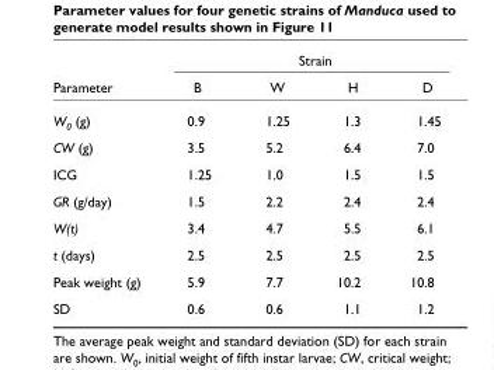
<table><thead><tr><td rowspan="2">Parameter</td><td colspan="4">Strain</td></tr><tr><td>B</td><td>W</td><td>H</td><td>D</td></tr></thead><tbody><tr><td>W0 (g)</td><td>0.9</td><td>1.25</td><td>1.3</td><td>1.45</td></tr><tr><td>CW (g)</td><td>3.5</td><td>5.2</td><td>6.4</td><td>7.0</td></tr><tr><td>ICG</td><td>1.25</td><td>1.0</td><td>1.5</td><td>1.5</td></tr><tr><td>GR (g/day)</td><td>1.5</td><td>2.2</td><td>2.4</td><td>2.4</td></tr><tr><td>W(t)</td><td>3.4</td><td>4.7</td><td>5.5</td><td>6.1</td></tr><tr><td>t (days)</td><td>2.5</td><td>2.5</td><td>2.5</td><td>2.5</td></tr><tr><td>Peak weight (g)</td><td>5.9</td><td>7.7</td><td>10.2</td><td>10.8</td></tr><tr><td>SD</td><td>0.6</td><td>0.6</td><td>1.1</td><td>1.2</td></tr></tbody></table>